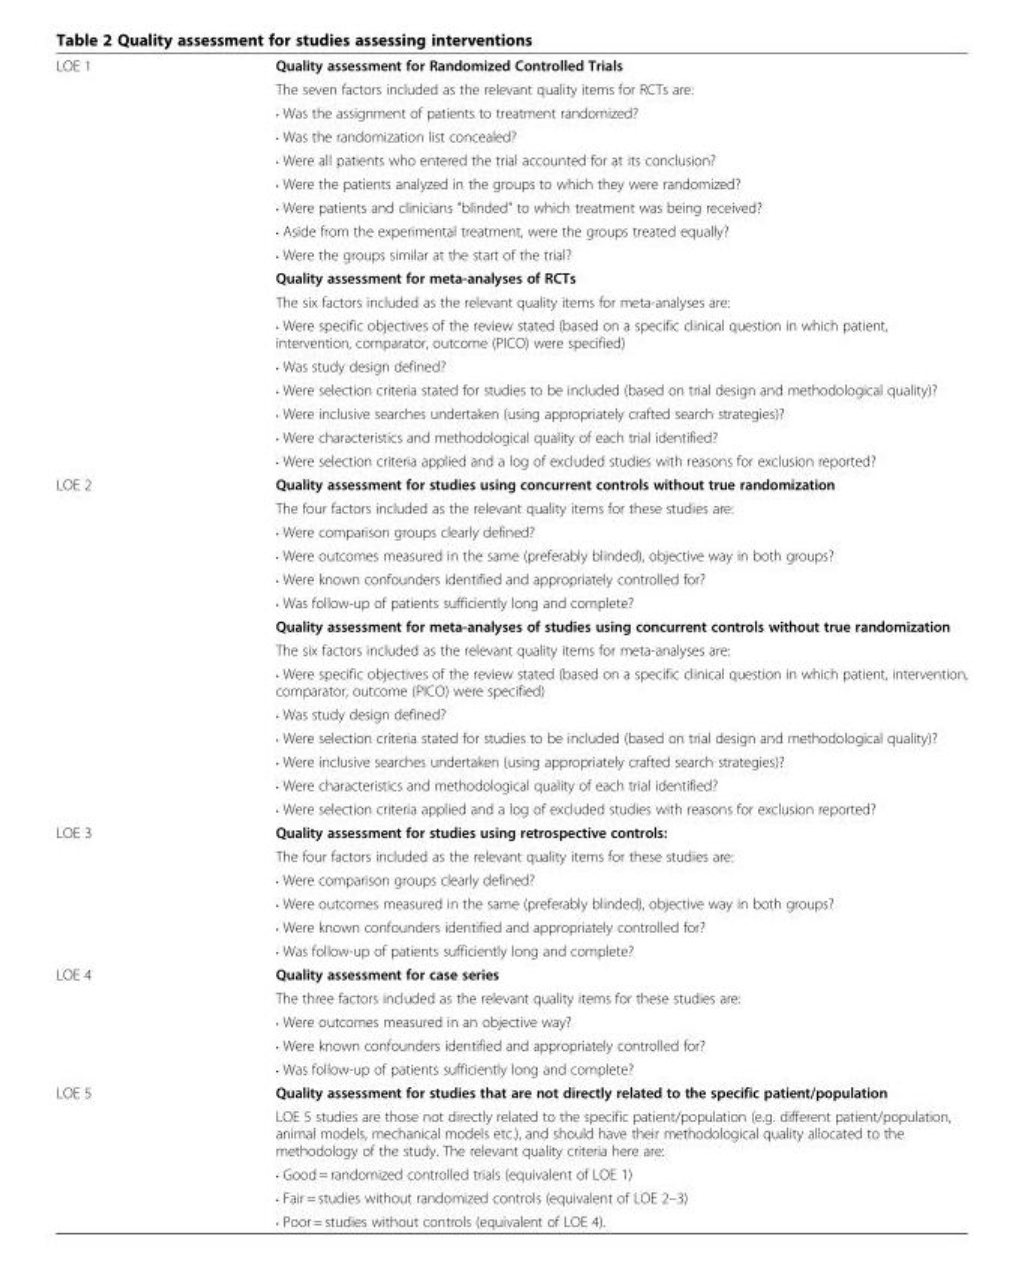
<table><tbody><tr><td rowspan="17">LOE 1</td><td>Quality assessment for Randomized Controlled Trials</td></tr><tr><td>The seven factors included as the relevant quality items for RCTs are:</td></tr><tr><td>• Was the assignment of patients to treatment randomized?</td></tr><tr><td>• Was the randomization list concealed?</td></tr><tr><td>• Were all patients who entered the trial accounted for at its conclusion?</td></tr><tr><td>• Were the patients analyzed in the groups to which they were randomized?</td></tr><tr><td>• Were patients and clinicians &quot;blinded&quot; to which treatment was being received?</td></tr><tr><td>• Aside from the experimental treatment, were the groups treated equally?</td></tr><tr><td>• Were the groups similar at the start of the trial?</td></tr><tr><td>Quality assessment for meta-analyses of RCTs</td></tr><tr><td>The six factors included as the relevant quality items for meta-analyses are:</td></tr><tr><td>• Were specific objectives of the review stated (based on a specific clinical question in which patient, intervention, comparator, outcome (PICO) were specified)</td></tr><tr><td>• Was study design defined?</td></tr><tr><td>• Were selection criteria stated for studies to be included (based on trial design and methodological quality)?</td></tr><tr><td>• Were inclusive searches undertaken (using appropriately crafted search strategies)?</td></tr><tr><td>• Were characteristics and methodological quality of each trial identified?</td></tr><tr><td>• Were selection criteria applied and a log of excluded studies with reasons for exclusion reported?</td></tr><tr><td rowspan="14">LOE 2</td><td>Quality assessment for studies using concurrent controls without true randomization</td></tr><tr><td>The four factors included as the relevant quality items for these studies are:</td></tr><tr><td>• Were comparison groups clearly defined?</td></tr><tr><td>• Were outcomes measured in the same (preferably blinded), objective way in both groups?</td></tr><tr><td>• Were known confounders identified and appropriately controlled for?</td></tr><tr><td>• Was follow-up of patients sufficiently long and complete?</td></tr><tr><td>Quality assessment for meta-analyses of studies using concurrent controls without true randomization</td></tr><tr><td>The six factors included as the relevant quality items for meta-analyses are:</td></tr><tr><td>• Were specific objectives of the review stated (based on a specific clinical question in which patient, intervention, comparator, outcome (PICO) were specified)</td></tr><tr><td>• Was study design defined?</td></tr><tr><td>• Were selection criteria stated for studies to be included (based on trial design and methodological quality)?</td></tr><tr><td>• Were inclusive searches undertaken (using appropriately crafted search strategies)?</td></tr><tr><td>• Were characteristics and methodological quality of each trial identified?</td></tr><tr><td>• Were selection criteria applied and a log of excluded studies with reasons for exclusion reported?</td></tr><tr><td rowspan="6">LOE 3</td><td>Quality assessment for studies using retrospective controls:</td></tr><tr><td>The four factors included as the relevant quality items for these studies are:</td></tr><tr><td>• Were comparison groups clearly defined?</td></tr><tr><td>• Were outcomes measured in the same (preferably blinded), objective way in both groups?</td></tr><tr><td>• Were known confounders identified and appropriately controlled for?</td></tr><tr><td>• Was follow-up of patients sufficiently long and complete?</td></tr><tr><td rowspan="5">LOE 4</td><td>Quality assessment for case series</td></tr><tr><td>The three factors included as the relevant quality items for these studies are:</td></tr><tr><td>• Were outcomes measured in an objective way?</td></tr><tr><td>• Were known confounders identified and appropriately controlled for?</td></tr><tr><td>• Was follow-up of patients sufficiently long and complete?</td></tr><tr><td rowspan="5">LOE 5</td><td>Quality assessment for studies that are not directly related to the specific patient/population</td></tr><tr><td>LOE 5 studies are those not directly related to the specific patient/population (e.g. different patient/population, animal models, mechanical models etc.), and should have their methodological quality allocated to the methodology of the study. The relevant quality criteria here are:</td></tr><tr><td>• Good = randomized controlled trials (equivalent of LOE 1)</td></tr><tr><td>• Fair = studies without randomized controls (equivalent of LOE 2–3)</td></tr><tr><td>• Poor = studies without controls (equivalent of LOE 4).</td></tr></tbody></table>